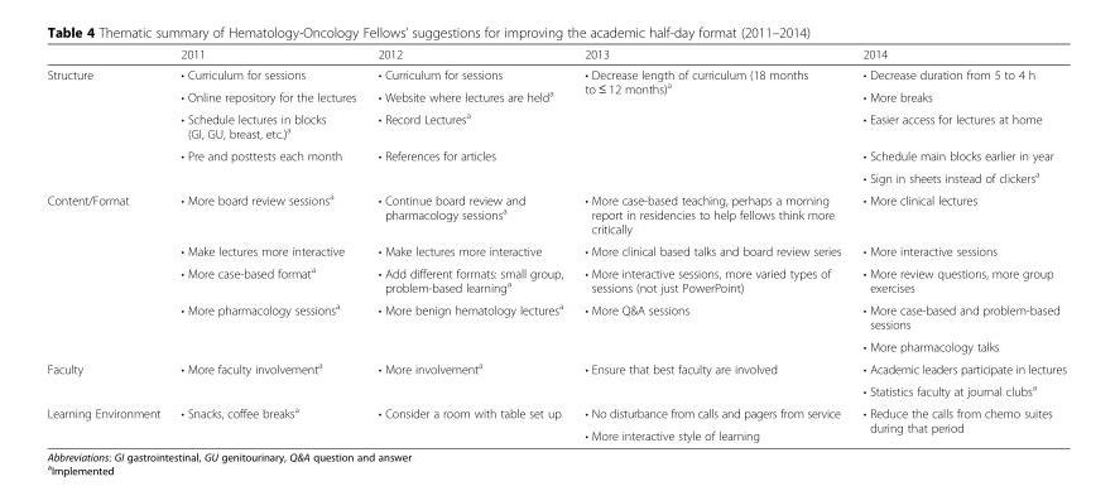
<table><thead><tr><td></td><td>2011</td><td>2012</td><td>2013</td><td>2014</td></tr></thead><tbody><tr><td rowspan="5">Structure</td><td>• Curriculum for sessions</td><td>• Curriculum for sessions</td><td rowspan="5">• Decrease length of curriculum (18 months to ≤ 12 months)<sup>a</sup></td><td>• Decrease duration from 5 to 4 h</td></tr><tr><td>• Online repository for the lectures</td><td>• Website where lectures are held<sup>a</sup></td><td>• More breaks</td></tr><tr><td>• Schedule lectures in blocks (GI, GU, breast, etc.)<sup>a</sup></td><td>• Record Lectures<sup>a</sup></td><td>• Easier access for lectures at home</td></tr><tr><td rowspan="2">• Pre and posttests each month</td><td rowspan="2">• References for articles</td><td>• Schedule main blocks earlier in year</td></tr><tr><td>• Sign in sheets instead of clickers<sup>a</sup></td></tr><tr><td rowspan="5">Content/Format</td><td>• More board review sessions<sup>a</sup></td><td>• Continue board review and pharmacology sessions<sup>a</sup></td><td>• More case-based teaching, perhaps a morning report in residencies to help fellows think more critically</td><td>• More clinical lectures</td></tr><tr><td>• Make lectures more interactive</td><td>• Make lectures more interactive</td><td>• More clinical based talks and board review series</td><td>• More interactive sessions</td></tr><tr><td>• More case-based format<sup>a</sup></td><td>• Add different formats: small group, problem-based learning<sup>a</sup></td><td>• More interactive sessions, more varied types of sessions (not just PowerPoint)</td><td>• More review questions, more group exercises</td></tr><tr><td rowspan="2">• More pharmacology sessions<sup>a</sup></td><td rowspan="2">• More benign hematology lectures<sup>a</sup></td><td rowspan="2">• More Q&amp;A sessions</td><td>• More case-based and problem-based sessions</td></tr><tr><td>• More pharmacology talks</td></tr><tr><td rowspan="2">Faculty</td><td rowspan="2">• More faculty involvement<sup>a</sup></td><td rowspan="2">• More involvement<sup>a</sup></td><td rowspan="2">• Ensure that best faculty are involved</td><td>• Academic leaders participate in lectures</td></tr><tr><td>• Statistics faculty at journal clubs<sup>a</sup></td></tr><tr><td rowspan="2">Learning Environment</td><td rowspan="2">• Snacks, coffee breaks<sup>a</sup></td><td rowspan="2">• Consider a room with table set up</td><td>• No disturbance from calls and pagers from service</td><td rowspan="2">• Reduce the calls from chemo suites during that period</td></tr><tr><td>• More interactive style of learning</td></tr></tbody></table>